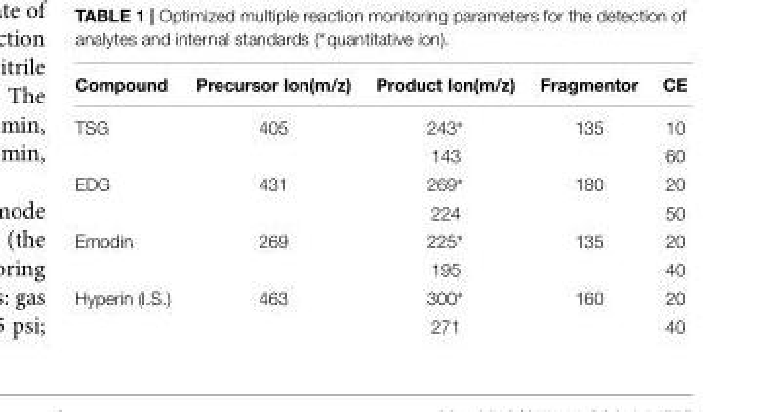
<table><thead><tr><td>Compound</td><td>Precursor Ion(m/z)</td><td>Product Ion(m/z)</td><td>Fragmentor</td><td>CE</td></tr></thead><tbody><tr><td rowspan="2">TSG</td><td>405</td><td>243∗</td><td>135</td><td>10</td></tr><tr><td></td><td>143</td><td></td><td>60</td></tr><tr><td rowspan="2">EDG</td><td>431</td><td>269∗</td><td>180</td><td>20</td></tr><tr><td></td><td>224</td><td></td><td>50</td></tr><tr><td rowspan="2">Emodin</td><td>269</td><td>225∗</td><td>135</td><td>20</td></tr><tr><td></td><td>195</td><td></td><td>40</td></tr><tr><td rowspan="2">Hyperin (I.S.)</td><td>463</td><td>300∗</td><td>160</td><td>20</td></tr><tr><td></td><td>271</td><td></td><td>40</td></tr></tbody></table>